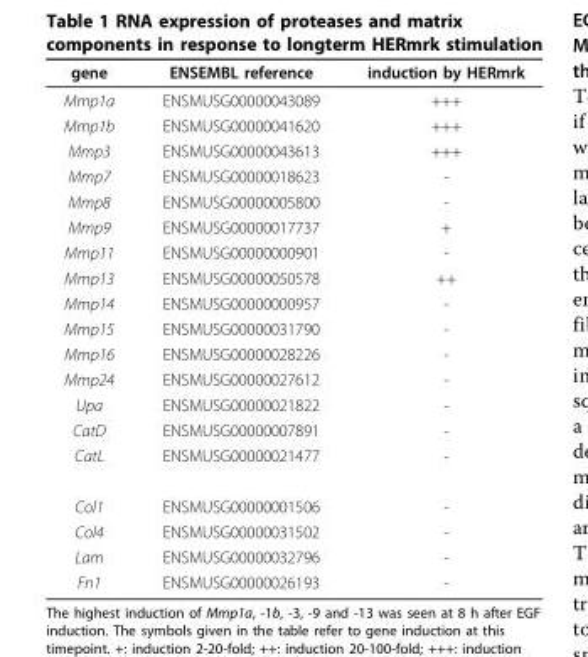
<table><thead><tr><td>gene</td><td>ENSEMBL reference</td><td>induction by HERmrk</td></tr></thead><tbody><tr><td>Mmp1a</td><td>ENSMUSG00000043089</td><td>+++</td></tr><tr><td>Mmp1b</td><td>ENSMUSG00000041620</td><td>+++</td></tr><tr><td>Mmp3</td><td>ENSMUSG00000043613</td><td>+++</td></tr><tr><td>Mmp7</td><td>ENSMUSG00000018623</td><td>-</td></tr><tr><td>Mmp8</td><td>ENSMUSG00000005800</td><td>-</td></tr><tr><td>Mmp9</td><td>ENSMUSG00000017737</td><td>+</td></tr><tr><td>Mmp11</td><td>ENSMUSG00000000901</td><td>-</td></tr><tr><td>Mmp13</td><td>ENSMUSG00000050578</td><td>++</td></tr><tr><td>Mmp14</td><td>ENSMUSG00000000957</td><td>-</td></tr><tr><td>Mmp15</td><td>ENSMUSG00000031790</td><td>-</td></tr><tr><td>Mmp16</td><td>ENSMUSG00000028226</td><td>-</td></tr><tr><td>Mmp24</td><td>ENSMUSG00000027612</td><td>-</td></tr><tr><td>Upa</td><td>ENSMUSG00000021822</td><td>-</td></tr><tr><td>CatD</td><td>ENSMUSG00000007891</td><td>-</td></tr><tr><td>CatL</td><td>ENSMUSG00000021477</td><td>-</td></tr><tr><td>Col1</td><td>ENSMUSG00000001506</td><td>-</td></tr><tr><td>Col4</td><td>ENSMUSG00000031502</td><td>-</td></tr><tr><td>Lam</td><td>ENSMUSG00000032796</td><td>-</td></tr><tr><td>Fn1</td><td>ENSMUSG00000026193</td><td>-</td></tr></tbody></table>